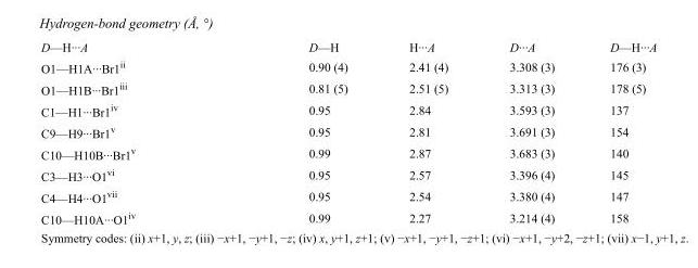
<table><tbody><tr><td>D—H···A</td><td>D—H</td><td>H···A</td><td>D···A</td><td>D—H···A</td></tr><tr><td>O1—H1A···Br1<sup>ii</sup></td><td>0.90 (4)</td><td>2.41 (4)</td><td>3.308 (3)</td><td>176 (3)</td></tr><tr><td>O1—H1B···Br1<sup>iii</sup></td><td>0.81 (5)</td><td>2.51 (5)</td><td>3.313 (3)</td><td>178 (5)</td></tr><tr><td>C1—H1···Br1<sup>iv</sup></td><td>0.95</td><td>2.84</td><td>3.593 (3)</td><td>137</td></tr><tr><td>C9—H9···Br1<sup>v</sup></td><td>0.95</td><td>2.81</td><td>3.691 (3)</td><td>154</td></tr><tr><td>C10—H10B···Br1<sup>v</sup></td><td>0.99</td><td>2.87</td><td>3.683 (3)</td><td>140</td></tr><tr><td>C3—H3···O1<sup>vi</sup></td><td>0.95</td><td>2.57</td><td>3.396 (4)</td><td>145</td></tr><tr><td>C4—H4···O1<sup>vii</sup></td><td>0.95</td><td>2.54</td><td>3.380 (4)</td><td>147</td></tr><tr><td>C10—H10A···O1<sup>iv</sup></td><td>0.99</td><td>2.27</td><td>3.214 (4)</td><td>158</td></tr></tbody></table>